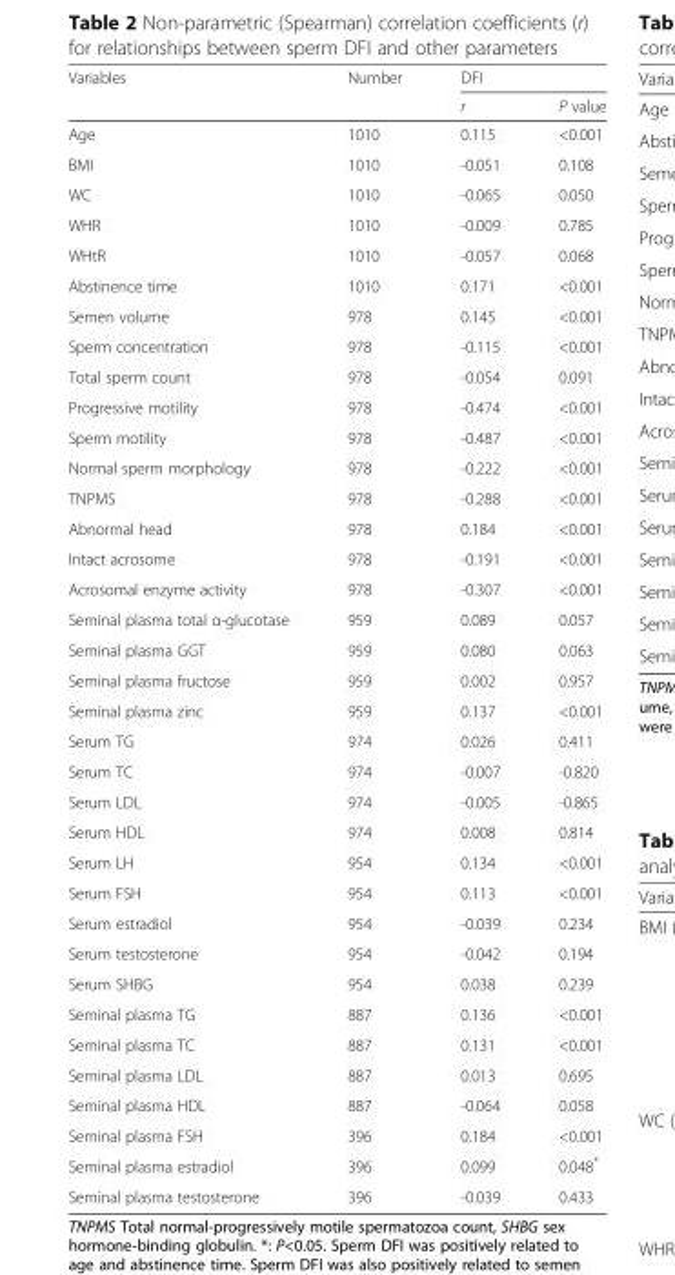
<table><thead><tr><td rowspan="2">Variables</td><td rowspan="2">Number</td><td colspan="2">DFI</td></tr><tr><td>r</td><td>P value</td></tr></thead><tbody><tr><td>Age</td><td>1010</td><td>0.115</td><td>&lt;0.001</td></tr><tr><td>BMI</td><td>1010</td><td>-0.051</td><td>0.108</td></tr><tr><td>WC</td><td>1010</td><td>-0.065</td><td>0.050</td></tr><tr><td>WHR</td><td>1010</td><td>-0.009</td><td>0.785</td></tr><tr><td>WHtR</td><td>1010</td><td>-0.057</td><td>0.068</td></tr><tr><td>Abstinence time</td><td>1010</td><td>0.171</td><td>&lt;0.001</td></tr><tr><td>Semen volume</td><td>978</td><td>0.145</td><td>&lt;0.001</td></tr><tr><td>Sperm concentration</td><td>978</td><td>-0.115</td><td>&lt;0.001</td></tr><tr><td>Total sperm count</td><td>978</td><td>-0.054</td><td>0.091</td></tr><tr><td>Progressive motility</td><td>978</td><td>-0.474</td><td>&lt;0.001</td></tr><tr><td>Sperm motility</td><td>978</td><td>-0.487</td><td>&lt;0.001</td></tr><tr><td>Normal sperm morphology</td><td>978</td><td>-0.222</td><td>&lt;0.001</td></tr><tr><td>TNPMS</td><td>978</td><td>-0.288</td><td>&lt;0.001</td></tr><tr><td>Abnormal head</td><td>978</td><td>0.184</td><td>&lt;0.001</td></tr><tr><td>Intact acrosome</td><td>978</td><td>-0.191</td><td>&lt;0.001</td></tr><tr><td>Acrosomal enzyme activity</td><td>978</td><td>-0.307</td><td>&lt;0.001</td></tr><tr><td>Seminal plasma total α-glucotase</td><td>959</td><td>0.089</td><td>0.057</td></tr><tr><td>Seminal plasma GGT</td><td>959</td><td>0.080</td><td>0.063</td></tr><tr><td>Seminal plasma fructose</td><td>959</td><td>0.002</td><td>0.957</td></tr><tr><td>Seminal plasma zinc</td><td>959</td><td>0.137</td><td>&lt;0.001</td></tr><tr><td>Serum TG</td><td>974</td><td>0.026</td><td>0.411</td></tr><tr><td>Serum TC</td><td>974</td><td>-0.007</td><td>-0.820</td></tr><tr><td>Serum LDL</td><td>974</td><td>-0.005</td><td>-0.865</td></tr><tr><td>Serum HDL</td><td>974</td><td>0.008</td><td>0.814</td></tr><tr><td>Serum LH</td><td>954</td><td>0.134</td><td>&lt;0.001</td></tr><tr><td>Serum FSH</td><td>954</td><td>0.113</td><td>&lt;0.001</td></tr><tr><td>Serum estradiol</td><td>954</td><td>-0.039</td><td>0.234</td></tr><tr><td>Serum testosterone</td><td>954</td><td>-0.042</td><td>0.194</td></tr><tr><td>Serum SHBG</td><td>954</td><td>0.038</td><td>0.239</td></tr><tr><td>Seminal plasma TG</td><td>887</td><td>0.136</td><td>&lt;0.001</td></tr><tr><td>Seminal plasma TC</td><td>887</td><td>0.131</td><td>&lt;0.001</td></tr><tr><td>Seminal plasma LDL</td><td>887</td><td>0.013</td><td>0.695</td></tr><tr><td>Seminal plasma HDL</td><td>887</td><td>-0.064</td><td>0.058</td></tr><tr><td>Seminal plasma FSH</td><td>396</td><td>0.184</td><td>&lt;0.001</td></tr><tr><td>Seminal plasma estradiol</td><td>396</td><td>0.099</td><td>0.048*</td></tr><tr><td>Seminal plasma testosterone</td><td>396</td><td>-0.039</td><td>0.433</td></tr></tbody></table>